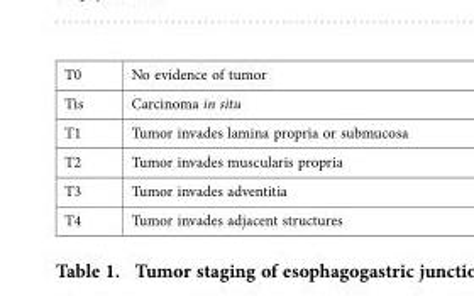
<table><tbody><tr><td>T0</td><td>No evidence of tumor</td></tr><tr><td>Tis</td><td>Carcinoma in situ</td></tr><tr><td>T1</td><td>Tumor invades lamina propria or submucosa</td></tr><tr><td>T2</td><td>Tumor invades muscularis propria</td></tr><tr><td>T3</td><td>Tumor invades adventitia</td></tr><tr><td>T4</td><td>Tumor invades adjacent structures</td></tr></tbody></table>